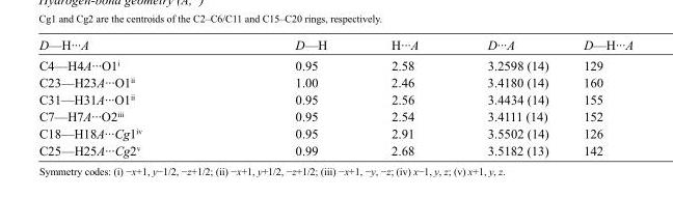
<table><tbody><tr><td>D—H···A</td><td>D—H</td><td>H···A</td><td>D···A</td><td>D—H···A</td></tr><tr><td>C4—H4A···O1<sup>i</sup></td><td>0.95</td><td>2.58</td><td>3.2598 (14)</td><td>129</td></tr><tr><td>C23—H23A···O1<sup>ii</sup></td><td>1.00</td><td>2.46</td><td>3.4180 (14)</td><td>160</td></tr><tr><td>C31—H31A···O1<sup>ii</sup></td><td>0.95</td><td>2.56</td><td>3.4434 (14)</td><td>155</td></tr><tr><td>C7—H7A···O2<sup>iii</sup></td><td>0.95</td><td>2.54</td><td>3.4111 (14)</td><td>152</td></tr><tr><td>C18—H18A···Cg1<sup>iv</sup></td><td>0.95</td><td>2.91</td><td>3.5502 (14)</td><td>126</td></tr><tr><td>C25—H25A···Cg2<sup>v</sup></td><td>0.99</td><td>2.68</td><td>3.5182 (13)</td><td>142</td></tr></tbody></table>